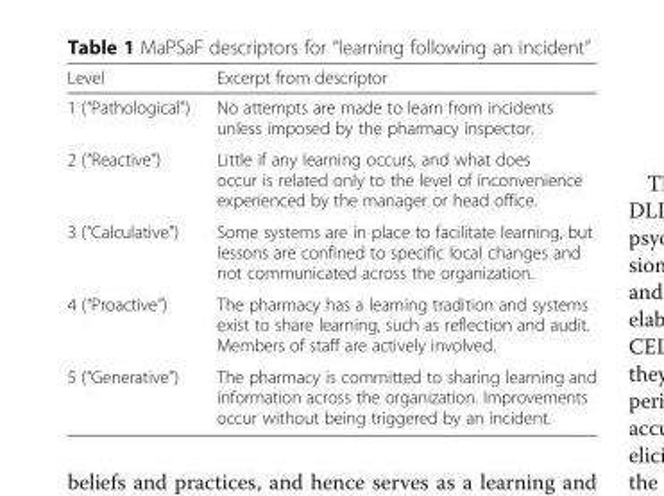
<table><thead><tr><td>Level</td><td>Excerpt from descriptor</td></tr></thead><tbody><tr><td>1 (“Pathological”)</td><td>No attempts are made to learn from incidents unless imposed by the pharmacy inspector.</td></tr><tr><td>2 (“Reactive”)</td><td>Little if any learning occurs, and what does occur is related only to the level of inconvenience experienced by the manager or head office.</td></tr><tr><td>3 (“Calculative”)</td><td>Some systems are in place to facilitate learning, but lessons are confined to specific local changes and not communicated across the organization.</td></tr><tr><td>4 (“Proactive”)</td><td>The pharmacy has a learning tradition and systems exist to share learning, such as reflection and audit. Members of staff are actively involved.</td></tr><tr><td>5 (“Generative”)</td><td>The pharmacy is committed to sharing learning and information across the organization. Improvements occur without being triggered by an incident.</td></tr></tbody></table>